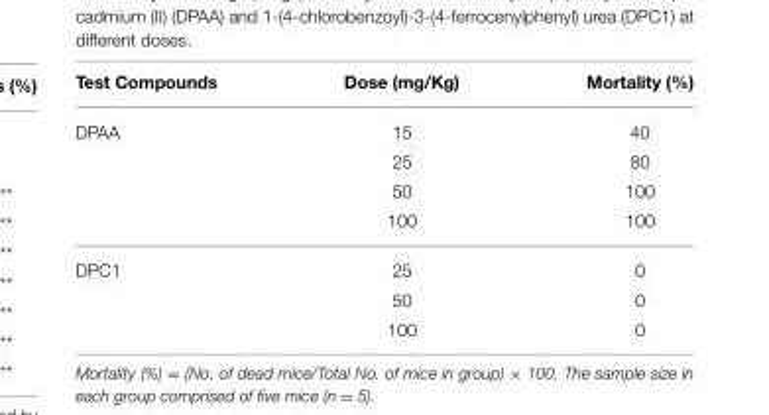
<table><thead><tr><td>Test Compounds</td><td>Dose (mg/Kg)</td><td>Mortality (%)</td></tr></thead><tbody><tr><td rowspan="4">DPAA</td><td>15</td><td>40</td></tr><tr><td>25</td><td>80</td></tr><tr><td>50</td><td>100</td></tr><tr><td>100</td><td>100</td></tr><tr><td rowspan="3">DPC1</td><td>25</td><td>0</td></tr><tr><td>50</td><td>0</td></tr><tr><td>100</td><td>0</td></tr></tbody></table>